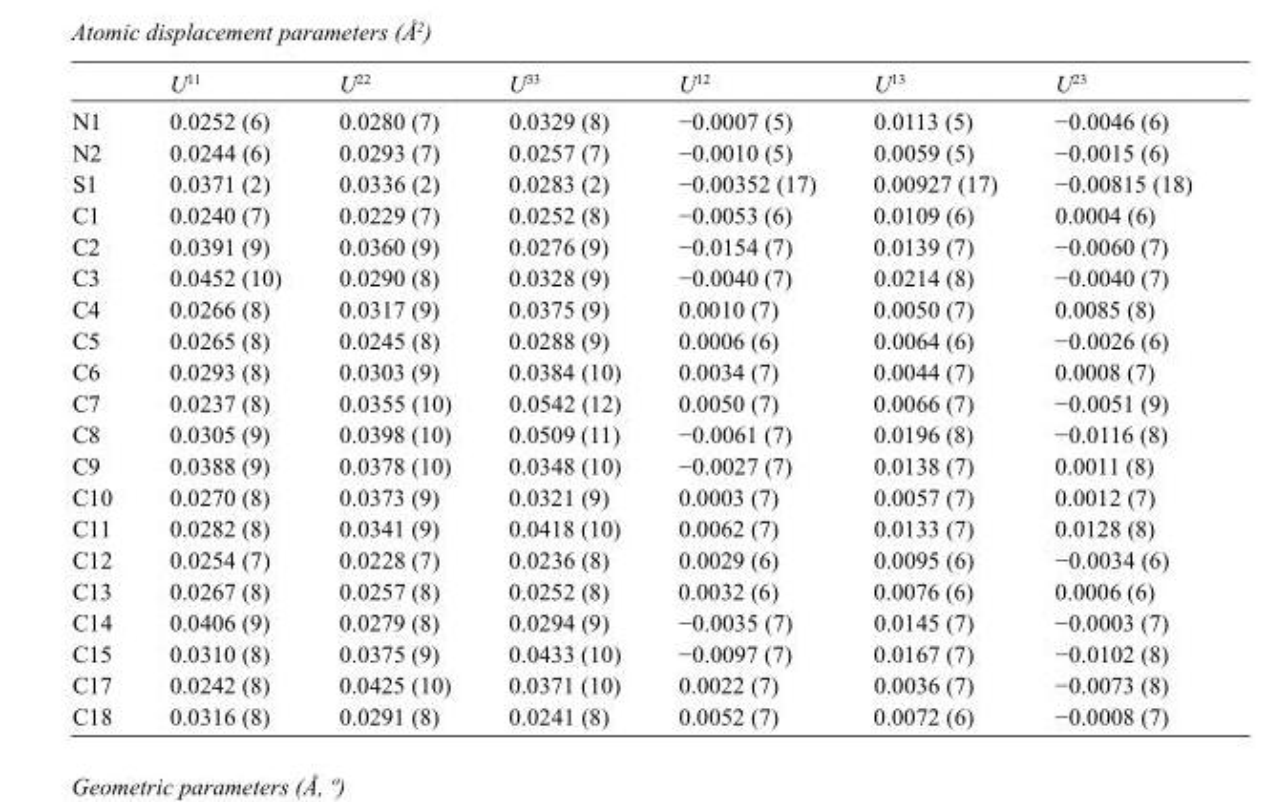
<table><thead><tr><td></td><td>U<sup>11</sup></td><td>U<sup>22</sup></td><td>U<sup>33</sup></td><td>U<sup>12</sup></td><td>U<sup>13</sup></td><td>U<sup>23</sup></td></tr></thead><tbody><tr><td>N1</td><td>0.0252 (6)</td><td>0.0280 (7)</td><td>0.0329 (8)</td><td>−0.0007 (5)</td><td>0.0113 (5)</td><td>−0.0046 (6)</td></tr><tr><td>N2</td><td>0.0244 (6)</td><td>0.0293 (7)</td><td>0.0257 (7)</td><td>−0.0010 (5)</td><td>0.0059 (5)</td><td>−0.0015 (6)</td></tr><tr><td>S1</td><td>0.0371 (2)</td><td>0.0336 (2)</td><td>0.0283 (2)</td><td>−0.00352 (17)</td><td>0.00927 (17)</td><td>−0.00815 (18)</td></tr><tr><td>C1</td><td>0.0240 (7)</td><td>0.0229 (7)</td><td>0.0252 (8)</td><td>−0.0053 (6)</td><td>0.0109 (6)</td><td>0.0004 (6)</td></tr><tr><td>C2</td><td>0.0391 (9)</td><td>0.0360 (9)</td><td>0.0276 (9)</td><td>−0.0154 (7)</td><td>0.0139 (7)</td><td>−0.0060 (7)</td></tr><tr><td>C3</td><td>0.0452 (10)</td><td>0.0290 (8)</td><td>0.0328 (9)</td><td>−0.0040 (7)</td><td>0.0214 (8)</td><td>−0.0040 (7)</td></tr><tr><td>C4</td><td>0.0266 (8)</td><td>0.0317 (9)</td><td>0.0375 (9)</td><td>0.0010 (7)</td><td>0.0050 (7)</td><td>0.0085 (8)</td></tr><tr><td>C5</td><td>0.0265 (8)</td><td>0.0245 (8)</td><td>0.0288 (9)</td><td>0.0006 (6)</td><td>0.0064 (6)</td><td>−0.0026 (6)</td></tr><tr><td>C6</td><td>0.0293 (8)</td><td>0.0303 (9)</td><td>0.0384 (10)</td><td>0.0034 (7)</td><td>0.0044 (7)</td><td>0.0008 (7)</td></tr><tr><td>C7</td><td>0.0237 (8)</td><td>0.0355 (10)</td><td>0.0542 (12)</td><td>0.0050 (7)</td><td>0.0066 (7)</td><td>−0.0051 (9)</td></tr><tr><td>C8</td><td>0.0305 (9)</td><td>0.0398 (10)</td><td>0.0509 (11)</td><td>−0.0061 (7)</td><td>0.0196 (8)</td><td>−0.0116 (8)</td></tr><tr><td>C9</td><td>0.0388 (9)</td><td>0.0378 (10)</td><td>0.0348 (10)</td><td>−0.0027 (7)</td><td>0.0138 (7)</td><td>0.0011 (8)</td></tr><tr><td>C10</td><td>0.0270 (8)</td><td>0.0373 (9)</td><td>0.0321 (9)</td><td>0.0003 (7)</td><td>0.0057 (7)</td><td>0.0012 (7)</td></tr><tr><td>C11</td><td>0.0282 (8)</td><td>0.0341 (9)</td><td>0.0418 (10)</td><td>0.0062 (7)</td><td>0.0133 (7)</td><td>0.0128 (8)</td></tr><tr><td>C12</td><td>0.0254 (7)</td><td>0.0228 (7)</td><td>0.0236 (8)</td><td>0.0029 (6)</td><td>0.0095 (6)</td><td>−0.0034 (6)</td></tr><tr><td>C13</td><td>0.0267 (8)</td><td>0.0257 (8)</td><td>0.0252 (8)</td><td>0.0032 (6)</td><td>0.0076 (6)</td><td>0.0006 (6)</td></tr><tr><td>C14</td><td>0.0406 (9)</td><td>0.0279 (8)</td><td>0.0294 (9)</td><td>−0.0035 (7)</td><td>0.0145 (7)</td><td>−0.0003 (7)</td></tr><tr><td>C15</td><td>0.0310 (8)</td><td>0.0375 (9)</td><td>0.0433 (10)</td><td>−0.0097 (7)</td><td>0.0167 (7)</td><td>−0.0102 (8)</td></tr><tr><td>C17</td><td>0.0242 (8)</td><td>0.0425 (10)</td><td>0.0371 (10)</td><td>0.0022 (7)</td><td>0.0036 (7)</td><td>−0.0073 (8)</td></tr><tr><td>C18</td><td>0.0316 (8)</td><td>0.0291 (8)</td><td>0.0241 (8)</td><td>0.0052 (7)</td><td>0.0072 (6)</td><td>−0.0008 (7)</td></tr></tbody></table>